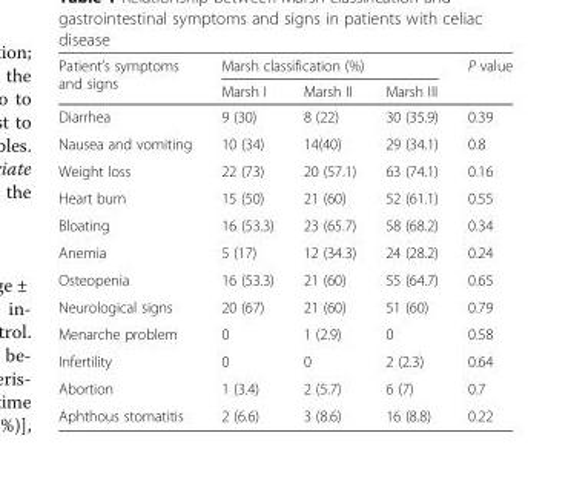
<table><thead><tr><td rowspan="2">Patient’s symptoms and signs</td><td colspan="3">Marsh classification (%)</td><td rowspan="2">P value</td></tr><tr><td>Marsh I</td><td>Marsh II</td><td>Marsh III</td></tr></thead><tbody><tr><td>Diarrhea</td><td>9 (30)</td><td>8 (22)</td><td>30 (35.9)</td><td>0.39</td></tr><tr><td>Nausea and vomiting</td><td>10 (34)</td><td>14(40)</td><td>29 (34.1)</td><td>0.8</td></tr><tr><td>Weight loss</td><td>22 (73)</td><td>20 (57.1)</td><td>63 (74.1)</td><td>0.16</td></tr><tr><td>Heart burn</td><td>15 (50)</td><td>21 (60)</td><td>52 (61.1)</td><td>0.55</td></tr><tr><td>Bloating</td><td>16 (53.3)</td><td>23 (65.7)</td><td>58 (68.2)</td><td>0.34</td></tr><tr><td>Anemia</td><td>5 (17)</td><td>12 (34.3)</td><td>24 (28.2)</td><td>0.24</td></tr><tr><td>Osteopenia</td><td>16 (53.3)</td><td>21 (60)</td><td>55 (64.7)</td><td>0.65</td></tr><tr><td>Neurological signs</td><td>20 (67)</td><td>21 (60)</td><td>51 (60)</td><td>0.79</td></tr><tr><td>Menarche problem</td><td>0</td><td>1 (2.9)</td><td>0</td><td>0.58</td></tr><tr><td>Infertility</td><td>0</td><td>0</td><td>2 (2.3)</td><td>0.64</td></tr><tr><td>Abortion</td><td>1 (3.4)</td><td>2 (5.7)</td><td>6 (7)</td><td>0.7</td></tr><tr><td>Aphthous stomatitis</td><td>2 (6.6)</td><td>3 (8.6)</td><td>16 (8.8)</td><td>0.22</td></tr></tbody></table>